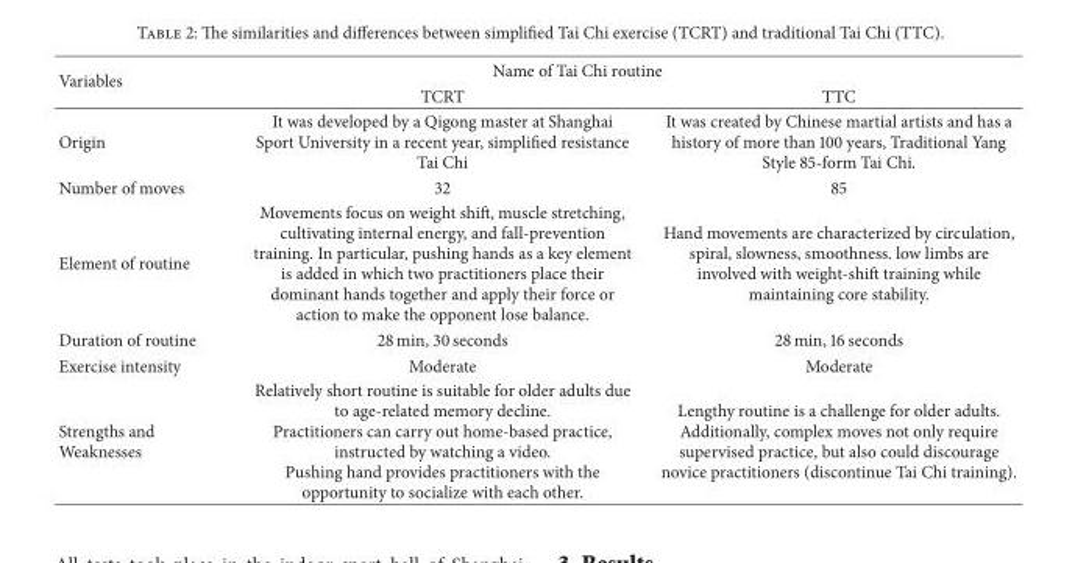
<table><thead><tr><td rowspan="2">Variables</td><td colspan="2">Name of Tai Chi routine</td></tr><tr><td>TCRT</td><td>TTC</td></tr></thead><tbody><tr><td>Origin</td><td>It was developed by a Qigong master at Shanghai Sport University in a recent year, simplified resistance Tai Chi</td><td>It was created by Chinese martial artists and has a history of more than 100 years, Traditional Yang Style 85-form Tai Chi.</td></tr><tr><td>Number of moves</td><td>32</td><td>85</td></tr><tr><td>Element of routine</td><td>Movements focus on weight shift, muscle stretching, cultivating internal energy, and fall-prevention training. In particular, pushing hands as a key element is added in which two practitioners place their dominant hands together and apply their force or action to make the opponent lose balance.</td><td>Hand movements are characterized by circulation, spiral, slowness, smoothness. low limbs are involved with weight-shift training while maintaining core stability.</td></tr><tr><td>Duration of routine</td><td>28 min, 30 seconds</td><td>28 min, 16 seconds</td></tr><tr><td>Exercise intensity</td><td>Moderate</td><td>Moderate</td></tr><tr><td>Strengths and Weaknesses</td><td>Relatively short routine is suitable for older adults due to age-related memory decline. Practitioners can carry out home-based practice, instructed by watching a video. Pushing hand provides practitioners with the opportunity to socialize with each other.</td><td>Lengthy routine is a challenge for older adults. Additionally, complex moves not only require supervised practice, but also could discourage novice practitioners (discontinue Tai Chi training).</td></tr></tbody></table>